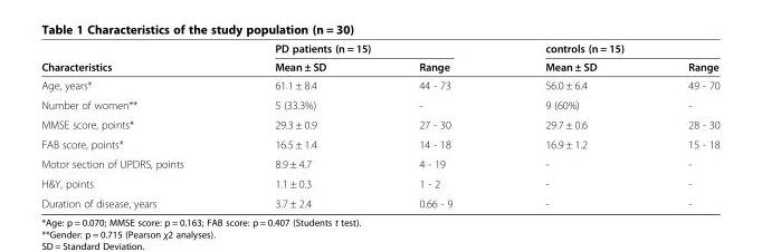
<table><thead><tr><td rowspan="2">Characteristics</td><td colspan="2">PD patients (n = 15)</td><td colspan="2">controls (n = 15)</td></tr><tr><td>Mean ± SD</td><td>Range</td><td>Mean ± SD</td><td>Range</td></tr></thead><tbody><tr><td>Age, years*</td><td>61.1 ± 8.4</td><td>44 - 73</td><td>56.0 ± 6.4</td><td>49 - 70</td></tr><tr><td>Number of women**</td><td>5 (33.3%)</td><td>-</td><td>9 (60%)</td><td>-</td></tr><tr><td>MMSE score, points*</td><td>29.3 ± 0.9</td><td>27 - 30</td><td>29.7 ± 0.6</td><td>28 - 30</td></tr><tr><td>FAB score, points*</td><td>16.5 ± 1.4</td><td>14 - 18</td><td>16.9 ± 1.2</td><td>15 - 18</td></tr><tr><td>Motor section of UPDRS, points</td><td>8.9 ± 4.7</td><td>4 - 19</td><td>-</td><td>-</td></tr><tr><td>H&amp;Y, points</td><td>1.1 ± 0.3</td><td>1 - 2</td><td>-</td><td>-</td></tr><tr><td>Duration of disease, years</td><td>3.7 ± 2.4</td><td>0.66 - 9</td><td>-</td><td>-</td></tr></tbody></table>